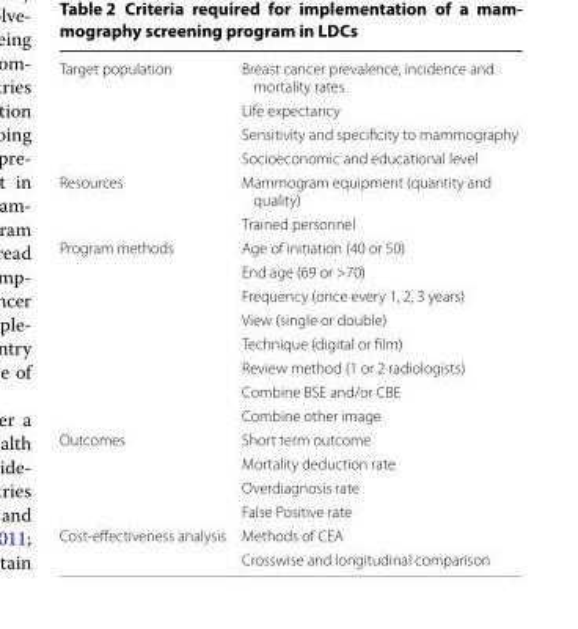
<table><tbody><tr><td rowspan="4">Target population</td><td>Breast cancer prevalence, incidence and mortality rates</td></tr><tr><td>Life expectancy</td></tr><tr><td>Sensitivity and specificity to mammography</td></tr><tr><td>Socioeconomic and educational level</td></tr><tr><td rowspan="2">Resources</td><td>Mammogram equipment (quantity and quality)</td></tr><tr><td>Trained personnel</td></tr><tr><td rowspan="8">Program methods</td><td>Age of initiation (40 or 50)</td></tr><tr><td>End age (69 or &gt;70)</td></tr><tr><td>Frequency (once every 1, 2, 3 years)</td></tr><tr><td>View (single or double)</td></tr><tr><td>Technique (digital or film)</td></tr><tr><td>Review method (1 or 2 radiologists)</td></tr><tr><td>Combine BSE and/or CBE</td></tr><tr><td>Combine other image</td></tr><tr><td rowspan="4">Outcomes</td><td>Short term outcome</td></tr><tr><td>Mortality deduction rate</td></tr><tr><td>Overdiagnosis rate</td></tr><tr><td>False Positive rate</td></tr><tr><td rowspan="2">Cost-effectiveness analysis</td><td>Methods of CEA</td></tr><tr><td>Crosswise and longitudinal comparison</td></tr></tbody></table>